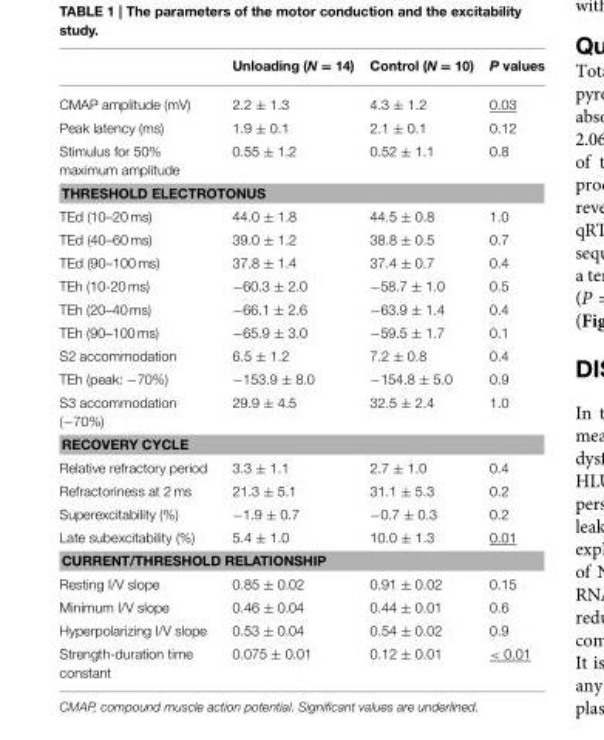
<table><thead><tr><td></td><td>Unloading (N = 14)</td><td>Control (N = 10)</td><td>P values</td></tr></thead><tbody><tr><td>CMAP amplitude (mV)</td><td>2.2 ± 1.3</td><td>4.3 ± 1.2</td><td>0.03</td></tr><tr><td>Peak latency (ms)</td><td>1.9 ± 0.1</td><td>2.1 ± 0.1</td><td>0.12</td></tr><tr><td>Stimulus for 50% maximum amplitude</td><td>0.55 ± 1.2</td><td>0.52 ± 1.1</td><td>0.8</td></tr><tr><td colspan="4">THRESHOLD ELECTROTONUS</td></tr><tr><td>TEd (10–20 ms)</td><td>44.0 ± 1.8</td><td>44.5 ± 0.8</td><td>1.0</td></tr><tr><td>TEd (40–60 ms)</td><td>39.0 ± 1.2</td><td>38.8 ± 0.5</td><td>0.7</td></tr><tr><td>TEd (90–100 ms)</td><td>37.8 ± 1.4</td><td>37.4 ± 0.7</td><td>0.4</td></tr><tr><td>TEh (10-20 ms)</td><td>−60.3 ± 2.0</td><td>−58.7 ± 1.0</td><td>0.5</td></tr><tr><td>TEh (20–40 ms)</td><td>−66.1 ± 2.6</td><td>−63.9 ± 1.4</td><td>0.4</td></tr><tr><td>TEh (90–100 ms)</td><td>−65.9 ± 3.0</td><td>−59.5 ± 1.7</td><td>0.1</td></tr><tr><td>S2 accommodation</td><td>6.5 ± 1.2</td><td>7.2 ± 0.8</td><td>0.4</td></tr><tr><td>TEh (peak: −70%)</td><td>−153.9 ± 8.0</td><td>−154.8 ± 5.0</td><td>0.9</td></tr><tr><td>S3 accommodation (−70%)</td><td>29.9 ± 4.5</td><td>32.5 ± 2.4</td><td>1.0</td></tr><tr><td colspan="4">RECOVERY CYCLE</td></tr><tr><td>Relative refractory period</td><td>3.3 ± 1.1</td><td>2.7 ± 1.0</td><td>0.4</td></tr><tr><td>Refractoriness at 2 ms</td><td>21.3 ± 5.1</td><td>31.1 ± 5.3</td><td>0.2</td></tr><tr><td>Superexcitability (%)</td><td>−1.9 ± 0.7</td><td>−0.7 ± 0.3</td><td>0.2</td></tr><tr><td>Late subexcitability (%)</td><td>5.4 ± 1.0</td><td>10.0 ± 1.3</td><td>0.01</td></tr><tr><td colspan="4">CURRENT/THRESHOLD RELATIONSHIP</td></tr><tr><td>Resting I/V slope</td><td>0.85 ± 0.02</td><td>0.91 ± 0.02</td><td>0.15</td></tr><tr><td>Minimum I/V slope</td><td>0.46 ± 0.04</td><td>0.44 ± 0.01</td><td>0.6</td></tr><tr><td>Hyperpolarizing I/V slope</td><td>0.53 ± 0.04</td><td>0.54 ± 0.02</td><td>0.9</td></tr><tr><td>Strength-duration time constant</td><td>0.075 ± 0.01</td><td>0.12 ± 0.01</td><td>&lt; 0.01</td></tr></tbody></table>